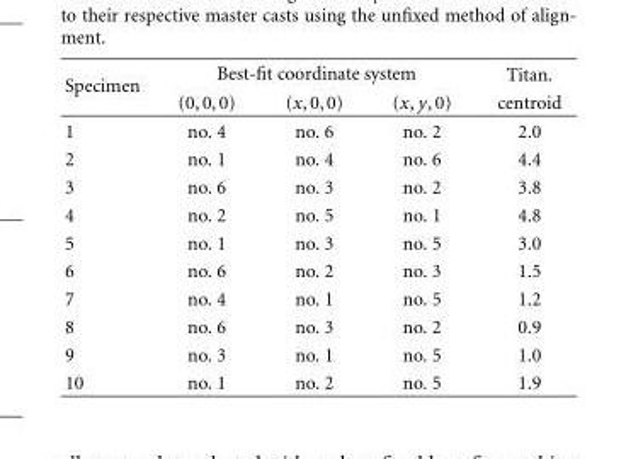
<table><thead><tr><td rowspan="2">Specimen</td><td colspan="3">Best-fit coordinate system</td><td rowspan="2">Titan. centroid</td></tr><tr><td>(0,0,0)</td><td>(x,0,0)</td><td>(x, y,0)</td></tr></thead><tbody><tr><td>1</td><td>no. 4</td><td>no. 6</td><td>no. 2</td><td>2.0</td></tr><tr><td>2</td><td>no. 1</td><td>no. 4</td><td>no. 6</td><td>4.4</td></tr><tr><td>3</td><td>no. 6</td><td>no. 3</td><td>no. 2</td><td>3.8</td></tr><tr><td>4</td><td>no. 2</td><td>no. 5</td><td>no. 1</td><td>4.8</td></tr><tr><td>5</td><td>no. 1</td><td>no. 3</td><td>no. 5</td><td>3.0</td></tr><tr><td>6</td><td>no. 6</td><td>no. 2</td><td>no. 3</td><td>1.5</td></tr><tr><td>7</td><td>no. 4</td><td>no. 1</td><td>no. 5</td><td>1.2</td></tr><tr><td>8</td><td>no. 6</td><td>no. 3</td><td>no. 2</td><td>0.9</td></tr><tr><td>9</td><td>no. 3</td><td>no. 1</td><td>no. 5</td><td>1.0</td></tr><tr><td>10</td><td>no. 1</td><td>no. 2</td><td>no. 5</td><td>1.9</td></tr></tbody></table>